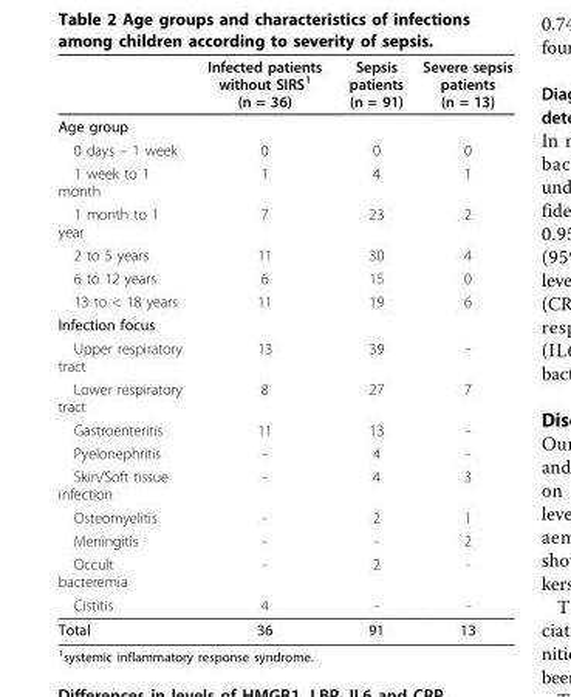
<table><thead><tr><td></td><td>Infected patients without SIRS<sup>1</sup> (n = 36)</td><td>Sepsis patients (n = 91)</td><td>Severe sepsis patients (n = 13)</td></tr></thead><tbody><tr><td colspan="4">Age group</td></tr><tr><td>0 days – 1 week</td><td>0</td><td>0</td><td>0</td></tr><tr><td>1 week to 1 month</td><td>1</td><td>4</td><td>1</td></tr><tr><td>1 month to 1 year</td><td>7</td><td>23</td><td>2</td></tr><tr><td>2 to 5 years</td><td>11</td><td>30</td><td>4</td></tr><tr><td>6 to 12 years</td><td>6</td><td>15</td><td>0</td></tr><tr><td>13 to &lt; 18 years</td><td>11</td><td>19</td><td>6</td></tr><tr><td colspan="4">Infection focus</td></tr><tr><td>Upper respiratory tract</td><td>13</td><td>39</td><td>-</td></tr><tr><td>Lower respiratory tract</td><td>8</td><td>27</td><td>7</td></tr><tr><td>Gastroenteritis</td><td>11</td><td>13</td><td>-</td></tr><tr><td>Pyelonephritis</td><td>-</td><td>4</td><td>-</td></tr><tr><td>Skin/Soft tissue infection</td><td>-</td><td>4</td><td>3</td></tr><tr><td>Osteomyelitis</td><td>-</td><td>2</td><td>1</td></tr><tr><td>Meningitis</td><td>-</td><td>-</td><td>2</td></tr><tr><td>Occult bacteremia</td><td>-</td><td>2</td><td>-</td></tr><tr><td>Cistitis</td><td>4</td><td>-</td><td>-</td></tr><tr><td>Total</td><td>36</td><td>91</td><td>13</td></tr></tbody></table>